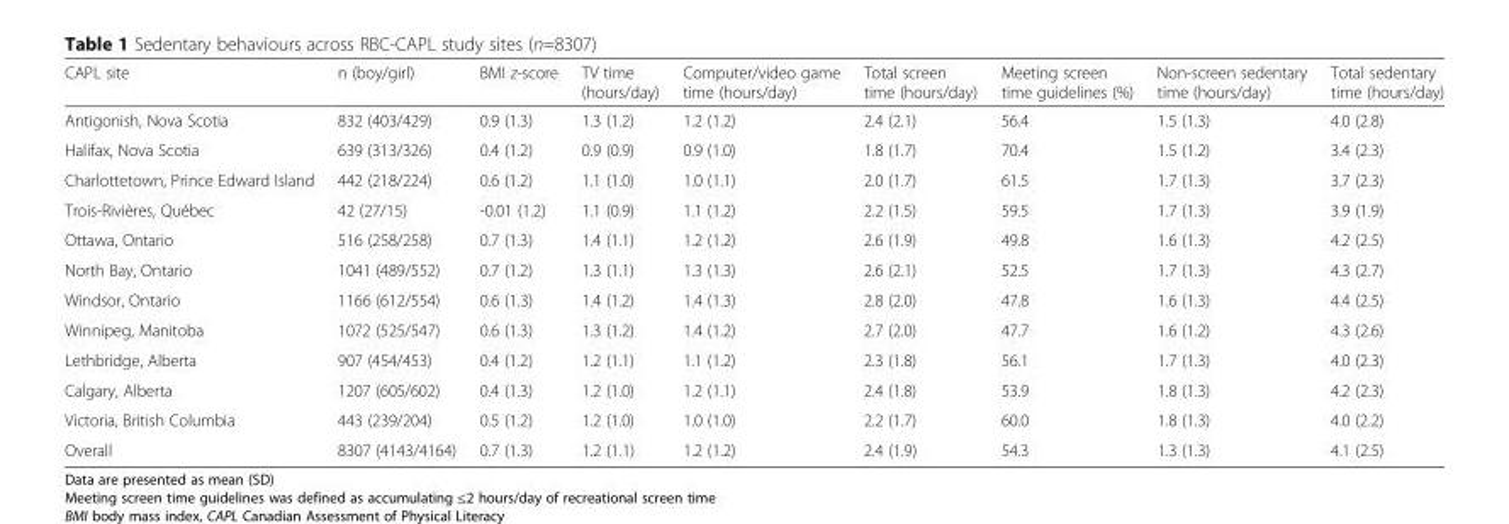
<table><thead><tr><td>CAPL site</td><td>n (boy/girl)</td><td>BMI z-score</td><td>TV time (hours/day)</td><td>Computer/video game time (hours/day)</td><td>Total screen time (hours/day)</td><td>Meeting screen time guidelines (%)</td><td>Non-screen sedentary time (hours/day)</td><td>Total sedentary time (hours/day)</td></tr></thead><tbody><tr><td>Antigonish, Nova Scotia</td><td>832 (403/429)</td><td>0.9 (1.3)</td><td>1.3 (1.2)</td><td>1.2 (1.2)</td><td>2.4 (2.1)</td><td>56.4</td><td>1.5 (1.3)</td><td>4.0 (2.8)</td></tr><tr><td>Halifax, Nova Scotia</td><td>639 (313/326)</td><td>0.4 (1.2)</td><td>0.9 (0.9)</td><td>0.9 (1.0)</td><td>1.8 (1.7)</td><td>70.4</td><td>1.5 (1.2)</td><td>3.4 (2.3)</td></tr><tr><td>Charlottetown, Prince Edward Island</td><td>442 (218/224)</td><td>0.6 (1.2)</td><td>1.1 (1.0)</td><td>1.0 (1.1)</td><td>2.0 (1.7)</td><td>61.5</td><td>1.7 (1.3)</td><td>3.7 (2.3)</td></tr><tr><td>Trois-Rivières, Québec</td><td>42 (27/15)</td><td>-0.01 (1.2)</td><td>1.1 (0.9)</td><td>1.1 (1.2)</td><td>2.2 (1.5)</td><td>59.5</td><td>1.7 (1.3)</td><td>3.9 (1.9)</td></tr><tr><td>Ottawa, Ontario</td><td>516 (258/258)</td><td>0.7 (1.3)</td><td>1.4 (1.1)</td><td>1.2 (1.2)</td><td>2.6 (1.9)</td><td>49.8</td><td>1.6 (1.3)</td><td>4.2 (2.5)</td></tr><tr><td>North Bay, Ontario</td><td>1041 (489/552)</td><td>0.7 (1.2)</td><td>1.3 (1.1)</td><td>1.3 (1.3)</td><td>2.6 (2.1)</td><td>52.5</td><td>1.7 (1.3)</td><td>4.3 (2.7)</td></tr><tr><td>Windsor, Ontario</td><td>1166 (612/554)</td><td>0.6 (1.3)</td><td>1.4 (1.2)</td><td>1.4 (1.3)</td><td>2.8 (2.0)</td><td>47.8</td><td>1.6 (1.3)</td><td>4.4 (2.5)</td></tr><tr><td>Winnipeg, Manitoba</td><td>1072 (525/547)</td><td>0.6 (1.3)</td><td>1.3 (1.2)</td><td>1.4 (1.2)</td><td>2.7 (2.0)</td><td>47.7</td><td>1.6 (1.2)</td><td>4.3 (2.6)</td></tr><tr><td>Lethbridge, Alberta</td><td>907 (454/453)</td><td>0.4 (1.2)</td><td>1.2 (1.1)</td><td>1.1 (1.2)</td><td>2.3 (1.8)</td><td>56.1</td><td>1.7 (1.3)</td><td>4.0 (2.3)</td></tr><tr><td>Calgary, Alberta</td><td>1207 (605/602)</td><td>0.4 (1.3)</td><td>1.2 (1.0)</td><td>1.2 (1.1)</td><td>2.4 (1.8)</td><td>53.9</td><td>1.8 (1.3)</td><td>4.2 (2.3)</td></tr><tr><td>Victoria, British Columbia</td><td>443 (239/204)</td><td>0.5 (1.2)</td><td>1.2 (1.0)</td><td>1.0 (1.0)</td><td>2.2 (1.7)</td><td>60.0</td><td>1.8 (1.3)</td><td>4.0 (2.2)</td></tr><tr><td>Overall</td><td>8307 (4143/4164)</td><td>0.7 (1.3)</td><td>1.2 (1.1)</td><td>1.2 (1.2)</td><td>2.4 (1.9)</td><td>54.3</td><td>1.3 (1.3)</td><td>4.1 (2.5)</td></tr></tbody></table>